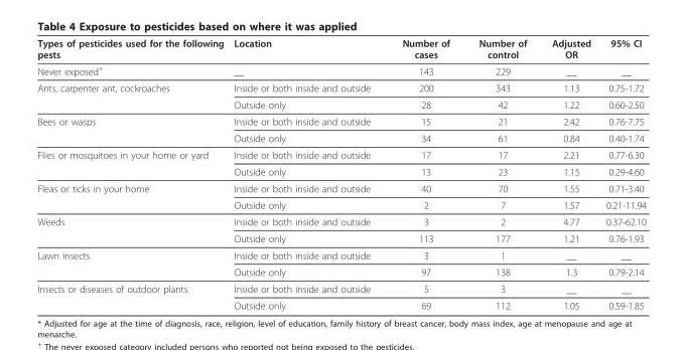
<table><thead><tr><td>Types of pesticides used for the following pests</td><td>Location</td><td>Number of cases</td><td>Number of control</td><td>Adjusted OR</td><td>95% CI</td></tr></thead><tbody><tr><td>Never exposed<sup>+</sup></td><td>__</td><td>143</td><td>229</td><td>__</td><td>__</td></tr><tr><td rowspan="2">Ants, carpenter ant, cockroaches</td><td>Inside or both inside and outside</td><td>200</td><td>343</td><td>1.13</td><td>0.75-1.72</td></tr><tr><td>Outside only</td><td>28</td><td>42</td><td>1.22</td><td>0.60-2.50</td></tr><tr><td rowspan="2">Bees or wasps</td><td>Inside or both inside and outside</td><td>15</td><td>21</td><td>2.42</td><td>0.76-7.75</td></tr><tr><td>Outside only</td><td>34</td><td>61</td><td>0.84</td><td>0.40-1.74</td></tr><tr><td rowspan="2">Flies or mosquitoes in your home or yard</td><td>Inside or both inside and outside</td><td>17</td><td>17</td><td>2.21</td><td>0.77-6.30</td></tr><tr><td>Outside only</td><td>13</td><td>23</td><td>1.15</td><td>0.29-4.60</td></tr><tr><td rowspan="2">Fleas or ticks in your home</td><td>Inside or both inside and outside</td><td>40</td><td>70</td><td>1.55</td><td>0.71-3.40</td></tr><tr><td>Outside only</td><td>2</td><td>7</td><td>1.57</td><td>0.21-11.94</td></tr><tr><td rowspan="2">Weeds</td><td>Inside or both inside and outside</td><td>3</td><td>2</td><td>4.77</td><td>0.37-62.10</td></tr><tr><td>Outside only</td><td>113</td><td>177</td><td>1.21</td><td>0.76-1.93</td></tr><tr><td rowspan="2">Lawn insects</td><td>Inside or both inside and outside</td><td>3</td><td>1</td><td>__</td><td>__</td></tr><tr><td>Outside only</td><td>97</td><td>138</td><td>1.3</td><td>0.79-2.14</td></tr><tr><td rowspan="2">Insects or diseases of outdoor plants</td><td>Inside or both inside and outside</td><td>5</td><td>3</td><td>__</td><td>__</td></tr><tr><td>Outside only</td><td>69</td><td>112</td><td>1.05</td><td>0.59-1.85</td></tr></tbody></table>